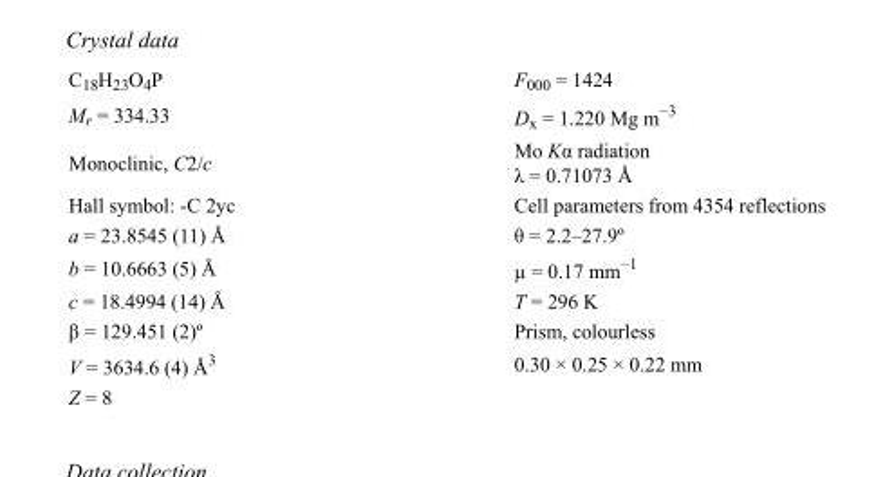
<table><tbody><tr><td>C<sub>18</sub>H<sub>23</sub>O<sub>4</sub>P</td><td>F000 = 1424</td></tr><tr><td>M<sub>r</sub> = 334.33</td><td>D<sub>x</sub> = 1.220 Mg m<sup>−3</sup></td></tr><tr><td>Monoclinic, C2/c</td><td>Mo Kα radiation λ = 0.71073 Å</td></tr><tr><td>Hall symbol: -C 2yc</td><td>Cell parameters from 4354 reflections</td></tr><tr><td>a = 23.8545 (11) Å</td><td>θ = 2.2–27.9º</td></tr><tr><td>b = 10.6663 (5) Å</td><td>µ = 0.17 mm<sup>−1</sup></td></tr><tr><td>c = 18.4994 (14) Å</td><td>T = 296 K</td></tr><tr><td>β = 129.451 (2)º</td><td>Prism, colourless</td></tr><tr><td>V = 3634.6 (4) Å<sup>3</sup></td><td>0.30 × 0.25 × 0.22 mm</td></tr><tr><td>Z = 8</td><td></td></tr></tbody></table>